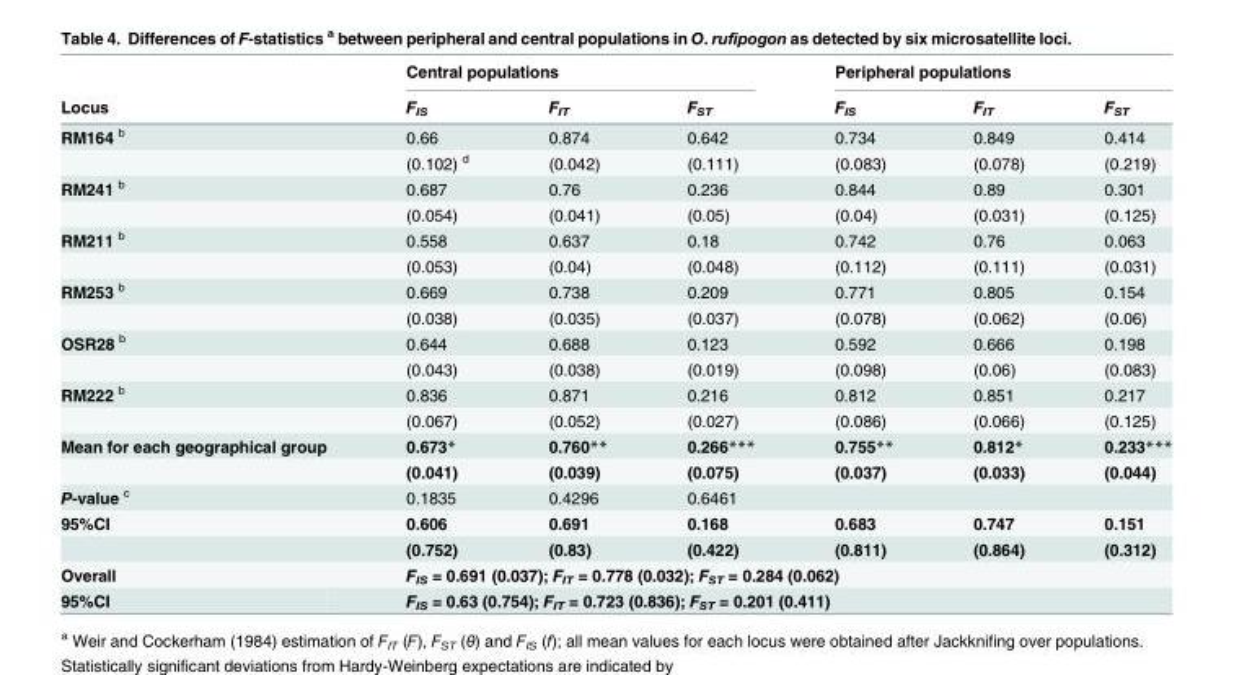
<table><thead><tr><td rowspan="2">Locus</td><td colspan="3">Central populations</td><td colspan="3">Peripheral populations</td></tr><tr><td>F<sub>IS</sub></td><td>F<sub>IT</sub></td><td>F<sub>ST</sub></td><td>F<sub>IS</sub></td><td>F<sub>IT</sub></td><td>F<sub>ST</sub></td></tr></thead><tbody><tr><td rowspan="2">RM164 <sup>b</sup></td><td>0.66</td><td>0.874</td><td>0.642</td><td>0.734</td><td>0.849</td><td>0.414</td></tr><tr><td>(0.102) <sup>d</sup></td><td>(0.042)</td><td>(0.111)</td><td>(0.083)</td><td>(0.078)</td><td>(0.219)</td></tr><tr><td rowspan="2">RM241 <sup>b</sup></td><td>0.687</td><td>0.76</td><td>0.236</td><td>0.844</td><td>0.89</td><td>0.301</td></tr><tr><td>(0.054)</td><td>(0.041)</td><td>(0.05)</td><td>(0.04)</td><td>(0.031)</td><td>(0.125)</td></tr><tr><td rowspan="2">RM211 <sup>b</sup></td><td>0.558</td><td>0.637</td><td>0.18</td><td>0.742</td><td>0.76</td><td>0.063</td></tr><tr><td>(0.053)</td><td>(0.04)</td><td>(0.048)</td><td>(0.112)</td><td>(0.111)</td><td>(0.031)</td></tr><tr><td rowspan="2">RM253 <sup>b</sup></td><td>0.669</td><td>0.738</td><td>0.209</td><td>0.771</td><td>0.805</td><td>0.154</td></tr><tr><td>(0.038)</td><td>(0.035)</td><td>(0.037)</td><td>(0.078)</td><td>(0.062)</td><td>(0.06)</td></tr><tr><td rowspan="2">OSR28 <sup>b</sup></td><td>0.644</td><td>0.688</td><td>0.123</td><td>0.592</td><td>0.666</td><td>0.198</td></tr><tr><td>(0.043)</td><td>(0.038)</td><td>(0.019)</td><td>(0.098)</td><td>(0.06)</td><td>(0.083)</td></tr><tr><td rowspan="2">RM222 <sup>b</sup></td><td>0.836</td><td>0.871</td><td>0.216</td><td>0.812</td><td>0.851</td><td>0.217</td></tr><tr><td>(0.067)</td><td>(0.052)</td><td>(0.027)</td><td>(0.086)</td><td>(0.066)</td><td>(0.125)</td></tr><tr><td rowspan="2">Mean for each geographical group</td><td>0.673*</td><td>0.760**</td><td>0.266***</td><td>0.755**</td><td>0.812*</td><td>0.233***</td></tr><tr><td>(0.041)</td><td>(0.039)</td><td>(0.075)</td><td>(0.037)</td><td>(0.033)</td><td>(0.044)</td></tr><tr><td>P-value <sup>c</sup></td><td>0.1835</td><td>0.4296</td><td>0.6461</td><td></td><td></td><td></td></tr><tr><td rowspan="2">95%CI</td><td>0.606</td><td>0.691</td><td>0.168</td><td>0.683</td><td>0.747</td><td>0.151</td></tr><tr><td>(0.752)</td><td>(0.83)</td><td>(0.422)</td><td>(0.811)</td><td>(0.864)</td><td>(0.312)</td></tr><tr><td>Overall</td><td colspan="6">F<sub>IS</sub> = 0.691 (0.037); F<sub>IT</sub> = 0.778 (0.032); F<sub>ST</sub> = 0.284 (0.062)</td></tr><tr><td>95%CI</td><td colspan="6">F<sub>IS</sub> = 0.63 (0.754); F<sub>IT</sub> = 0.723 (0.836); F<sub>ST</sub> = 0.201 (0.411)</td></tr></tbody></table>